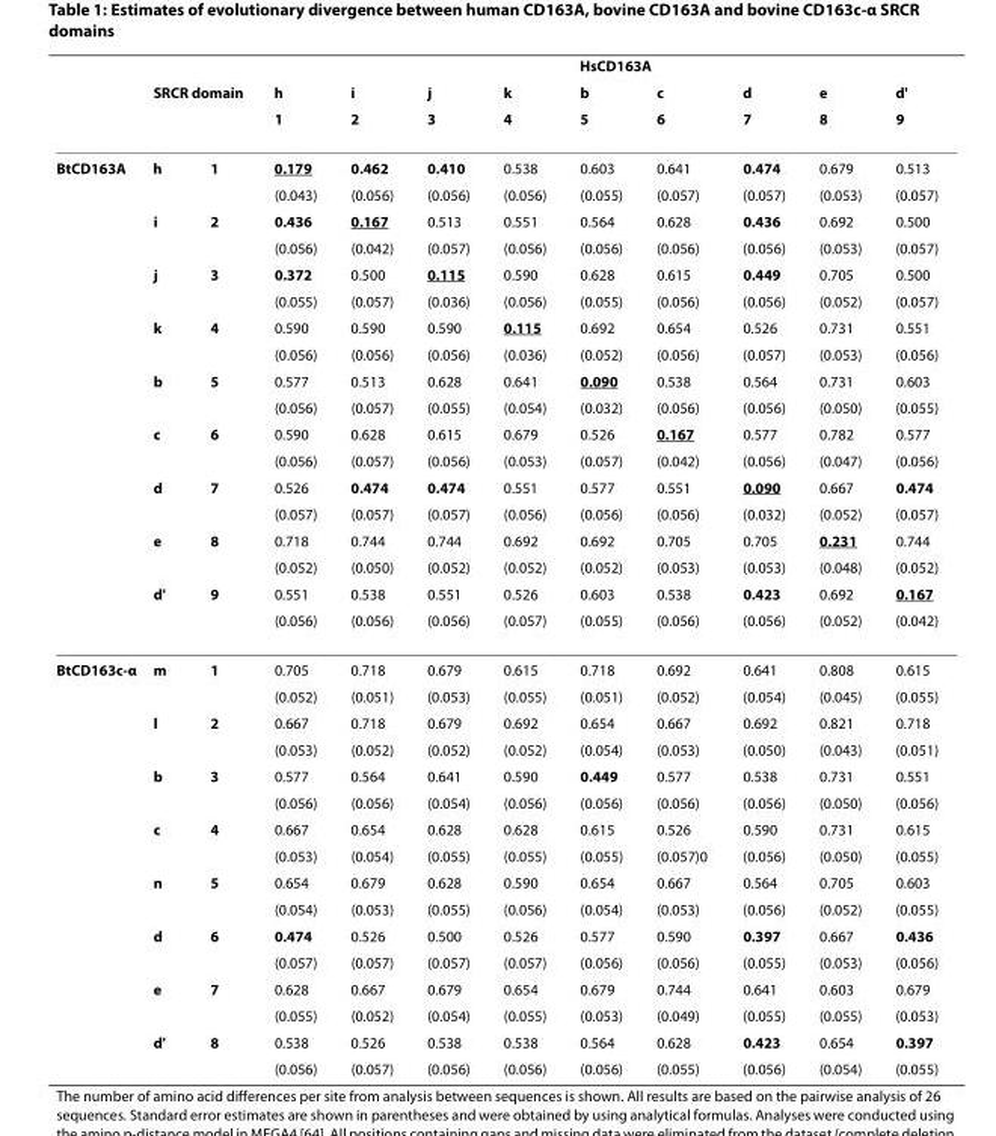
<table><thead><tr><td rowspan="3"></td><td></td><td></td><td colspan="9">HsCD163A</td></tr><tr><td colspan="2">SRCR domain</td><td rowspan="2">h 1</td><td rowspan="2">i 2</td><td rowspan="2">j 3</td><td rowspan="2">k 4</td><td rowspan="2">b 5</td><td rowspan="2">c 6</td><td rowspan="2">d 7</td><td rowspan="2">e 8</td><td rowspan="2">d&#x27; 9</td></tr><tr><td></td><td></td></tr></thead><tbody><tr><td rowspan="18">BtCD163A</td><td>h</td><td>1</td><td>0.179</td><td>0.462</td><td>0.410</td><td>0.538</td><td>0.603</td><td>0.641</td><td>0.474</td><td>0.679</td><td>0.513</td></tr><tr><td></td><td></td><td>(0.043)</td><td>(0.056)</td><td>(0.056)</td><td>(0.056)</td><td>(0.055)</td><td>(0.057)</td><td>(0.057)</td><td>(0.053)</td><td>(0.057)</td></tr><tr><td>i</td><td>2</td><td>0.436</td><td>0.167</td><td>0.513</td><td>0.551</td><td>0.564</td><td>0.628</td><td>0.436</td><td>0.692</td><td>0.500</td></tr><tr><td></td><td></td><td>(0.056)</td><td>(0.042)</td><td>(0.057)</td><td>(0.056)</td><td>(0.056)</td><td>(0.056)</td><td>(0.056)</td><td>(0.053)</td><td>(0.057)</td></tr><tr><td>j</td><td>3</td><td>0.372</td><td>0.500</td><td>0.115</td><td>0.590</td><td>0.628</td><td>0.615</td><td>0.449</td><td>0.705</td><td>0.500</td></tr><tr><td></td><td></td><td>(0.055)</td><td>(0.057)</td><td>(0.036)</td><td>(0.056)</td><td>(0.055)</td><td>(0.056)</td><td>(0.056)</td><td>(0.052)</td><td>(0.057)</td></tr><tr><td>k</td><td>4</td><td>0.590</td><td>0.590</td><td>0.590</td><td>0.115</td><td>0.692</td><td>0.654</td><td>0.526</td><td>0.731</td><td>0.551</td></tr><tr><td></td><td></td><td>(0.056)</td><td>(0.056)</td><td>(0.056)</td><td>(0.036)</td><td>(0.052)</td><td>(0.056)</td><td>(0.057)</td><td>(0.053)</td><td>(0.056)</td></tr><tr><td>b</td><td>5</td><td>0.577</td><td>0.513</td><td>0.628</td><td>0.641</td><td>0.090</td><td>0.538</td><td>0.564</td><td>0.731</td><td>0.603</td></tr><tr><td></td><td></td><td>(0.056)</td><td>(0.057)</td><td>(0.055)</td><td>(0.054)</td><td>(0.032)</td><td>(0.056)</td><td>(0.056)</td><td>(0.050)</td><td>(0.055)</td></tr><tr><td>c</td><td>6</td><td>0.590</td><td>0.628</td><td>0.615</td><td>0.679</td><td>0.526</td><td>0.167</td><td>0.577</td><td>0.782</td><td>0.577</td></tr><tr><td></td><td></td><td>(0.056)</td><td>(0.057)</td><td>(0.056)</td><td>(0.053)</td><td>(0.057)</td><td>(0.042)</td><td>(0.056)</td><td>(0.047)</td><td>(0.056)</td></tr><tr><td>d</td><td>7</td><td>0.526</td><td>0.474</td><td>0.474</td><td>0.551</td><td>0.577</td><td>0.551</td><td>0.090</td><td>0.667</td><td>0.474</td></tr><tr><td></td><td></td><td>(0.057)</td><td>(0.057)</td><td>(0.057)</td><td>(0.056)</td><td>(0.056)</td><td>(0.056)</td><td>(0.032)</td><td>(0.052)</td><td>(0.057)</td></tr><tr><td>e</td><td>8</td><td>0.718</td><td>0.744</td><td>0.744</td><td>0.692</td><td>0.692</td><td>0.705</td><td>0.705</td><td>0.231</td><td>0.744</td></tr><tr><td></td><td></td><td>(0.052)</td><td>(0.050)</td><td>(0.052)</td><td>(0.052)</td><td>(0.052)</td><td>(0.053)</td><td>(0.053)</td><td>(0.048)</td><td>(0.052)</td></tr><tr><td>d&#x27;</td><td>9</td><td>0.551</td><td>0.538</td><td>0.551</td><td>0.526</td><td>0.603</td><td>0.538</td><td>0.423</td><td>0.692</td><td>0.167</td></tr><tr><td></td><td></td><td>(0.056)</td><td>(0.056)</td><td>(0.056)</td><td>(0.057)</td><td>(0.055)</td><td>(0.056)</td><td>(0.056)</td><td>(0.052)</td><td>(0.042)</td></tr><tr><td rowspan="16">BtCD163c-α</td><td>m</td><td>1</td><td>0.705</td><td>0.718</td><td>0.679</td><td>0.615</td><td>0.718</td><td>0.692</td><td>0.641</td><td>0.808</td><td>0.615</td></tr><tr><td></td><td></td><td>(0.052)</td><td>(0.051)</td><td>(0.053)</td><td>(0.055)</td><td>(0.051)</td><td>(0.052)</td><td>(0.054)</td><td>(0.045)</td><td>(0.055)</td></tr><tr><td>l</td><td>2</td><td>0.667</td><td>0.718</td><td>0.679</td><td>0.692</td><td>0.654</td><td>0.667</td><td>0.692</td><td>0.821</td><td>0.718</td></tr><tr><td></td><td></td><td>(0.053)</td><td>(0.052)</td><td>(0.052)</td><td>(0.052)</td><td>(0.054)</td><td>(0.053)</td><td>(0.050)</td><td>(0.043)</td><td>(0.051)</td></tr><tr><td>b</td><td>3</td><td>0.577</td><td>0.564</td><td>0.641</td><td>0.590</td><td>0.449</td><td>0.577</td><td>0.538</td><td>0.731</td><td>0.551</td></tr><tr><td></td><td></td><td>(0.056)</td><td>(0.056)</td><td>(0.054)</td><td>(0.056)</td><td>(0.056)</td><td>(0.056)</td><td>(0.056)</td><td>(0.050)</td><td>(0.056)</td></tr><tr><td>c</td><td>4</td><td>0.667</td><td>0.654</td><td>0.628</td><td>0.628</td><td>0.615</td><td>0.526</td><td>0.590</td><td>0.731</td><td>0.615</td></tr><tr><td></td><td></td><td>(0.053)</td><td>(0.054)</td><td>(0.055)</td><td>(0.055)</td><td>(0.055)</td><td>(0.057)0</td><td>(0.056)</td><td>(0.050)</td><td>(0.055)</td></tr><tr><td>n</td><td>5</td><td>0.654</td><td>0.679</td><td>0.628</td><td>0.590</td><td>0.654</td><td>0.667</td><td>0.564</td><td>0.705</td><td>0.603</td></tr><tr><td></td><td></td><td>(0.054)</td><td>(0.053)</td><td>(0.055)</td><td>(0.056)</td><td>(0.054)</td><td>(0.053)</td><td>(0.056)</td><td>(0.052)</td><td>(0.055)</td></tr><tr><td>d</td><td>6</td><td>0.474</td><td>0.526</td><td>0.500</td><td>0.526</td><td>0.577</td><td>0.590</td><td>0.397</td><td>0.667</td><td>0.436</td></tr><tr><td></td><td></td><td>(0.057)</td><td>(0.057)</td><td>(0.057)</td><td>(0.057)</td><td>(0.056)</td><td>(0.056)</td><td>(0.055)</td><td>(0.053)</td><td>(0.056)</td></tr><tr><td>e</td><td>7</td><td>0.628</td><td>0.667</td><td>0.679</td><td>0.654</td><td>0.679</td><td>0.744</td><td>0.641</td><td>0.603</td><td>0.679</td></tr><tr><td></td><td></td><td>(0.055)</td><td>(0.052)</td><td>(0.054)</td><td>(0.055)</td><td>(0.053)</td><td>(0.049)</td><td>(0.055)</td><td>(0.055)</td><td>(0.053)</td></tr><tr><td>d&#x27;</td><td>8</td><td>0.538</td><td>0.526</td><td>0.538</td><td>0.538</td><td>0.564</td><td>0.628</td><td>0.423</td><td>0.654</td><td>0.397</td></tr><tr><td></td><td></td><td>(0.056)</td><td>(0.057)</td><td>(0.056)</td><td>(0.056)</td><td>(0.056)</td><td>(0.055)</td><td>(0.056)</td><td>(0.054)</td><td>(0.055)</td></tr></tbody></table>